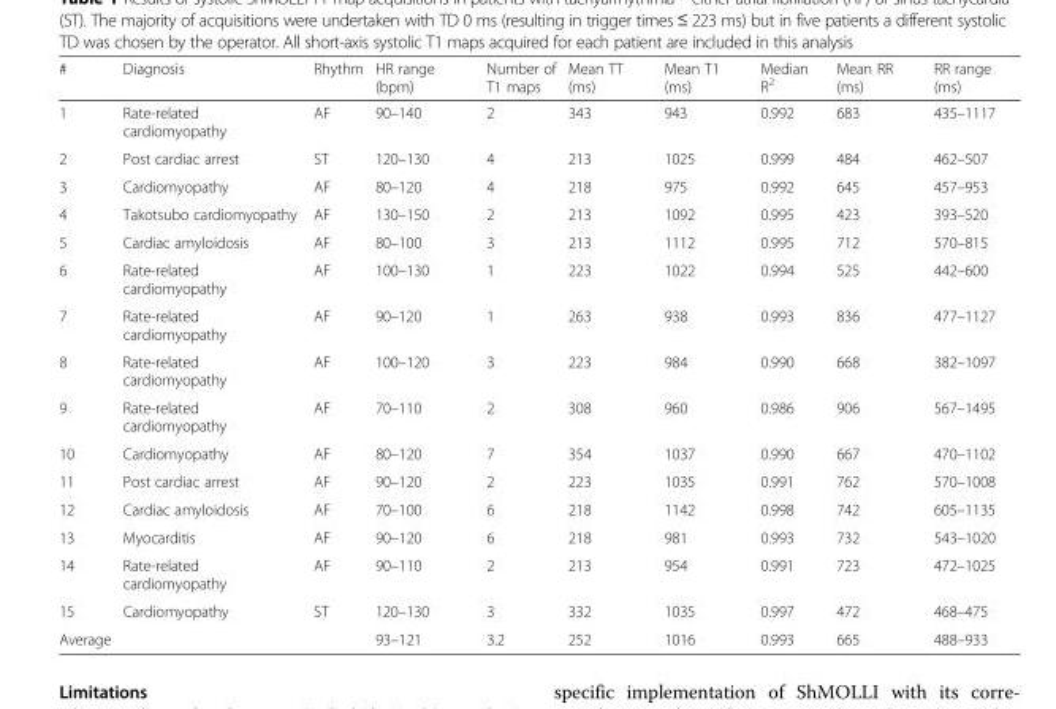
<table><thead><tr><td>#</td><td>Diagnosis</td><td>Rhythm</td><td>HR range (bpm)</td><td>Number of T1 maps</td><td>Mean TT (ms)</td><td>Mean T1 (ms)</td><td>Median R<sup>2</sup></td><td>Mean RR (ms)</td><td>RR range (ms)</td></tr></thead><tbody><tr><td>1</td><td>Rate-related cardiomyopathy</td><td>AF</td><td>90–140</td><td>2</td><td>343</td><td>943</td><td>0.992</td><td>683</td><td>435–1117</td></tr><tr><td>2</td><td>Post cardiac arrest</td><td>ST</td><td>120–130</td><td>4</td><td>213</td><td>1025</td><td>0.999</td><td>484</td><td>462–507</td></tr><tr><td>3</td><td>Cardiomyopathy</td><td>AF</td><td>80–120</td><td>4</td><td>218</td><td>975</td><td>0.992</td><td>645</td><td>457–953</td></tr><tr><td>4</td><td>Takotsubo cardiomyopathy</td><td>AF</td><td>130–150</td><td>2</td><td>213</td><td>1092</td><td>0.995</td><td>423</td><td>393–520</td></tr><tr><td>5</td><td>Cardiac amyloidosis</td><td>AF</td><td>80–100</td><td>3</td><td>213</td><td>1112</td><td>0.995</td><td>712</td><td>570–815</td></tr><tr><td>6</td><td>Rate-related cardiomyopathy</td><td>AF</td><td>100–130</td><td>1</td><td>223</td><td>1022</td><td>0.994</td><td>525</td><td>442–600</td></tr><tr><td>7</td><td>Rate-related cardiomyopathy</td><td>AF</td><td>90–120</td><td>1</td><td>263</td><td>938</td><td>0.993</td><td>836</td><td>477–1127</td></tr><tr><td>8</td><td>Rate-related cardiomyopathy</td><td>AF</td><td>100–120</td><td>3</td><td>223</td><td>984</td><td>0.990</td><td>668</td><td>382–1097</td></tr><tr><td>9</td><td>Rate-related cardiomyopathy</td><td>AF</td><td>70–110</td><td>2</td><td>308</td><td>960</td><td>0.986</td><td>906</td><td>567–1495</td></tr><tr><td>10</td><td>Cardiomyopathy</td><td>AF</td><td>80–120</td><td>7</td><td>354</td><td>1037</td><td>0.990</td><td>667</td><td>470–1102</td></tr><tr><td>11</td><td>Post cardiac arrest</td><td>AF</td><td>90–120</td><td>2</td><td>223</td><td>1035</td><td>0.991</td><td>762</td><td>570–1008</td></tr><tr><td>12</td><td>Cardiac amyloidosis</td><td>AF</td><td>70–100</td><td>6</td><td>218</td><td>1142</td><td>0.998</td><td>742</td><td>605–1135</td></tr><tr><td>13</td><td>Myocarditis</td><td>AF</td><td>90–120</td><td>6</td><td>218</td><td>981</td><td>0.993</td><td>732</td><td>543–1020</td></tr><tr><td>14</td><td>Rate-related cardiomyopathy</td><td>AF</td><td>90–110</td><td>2</td><td>213</td><td>954</td><td>0.991</td><td>723</td><td>472–1025</td></tr><tr><td>15</td><td>Cardiomyopathy</td><td>ST</td><td>120–130</td><td>3</td><td>332</td><td>1035</td><td>0.997</td><td>472</td><td>468–475</td></tr><tr><td>Average</td><td></td><td></td><td>93–121</td><td>3.2</td><td>252</td><td>1016</td><td>0.993</td><td>665</td><td>488–933</td></tr></tbody></table>